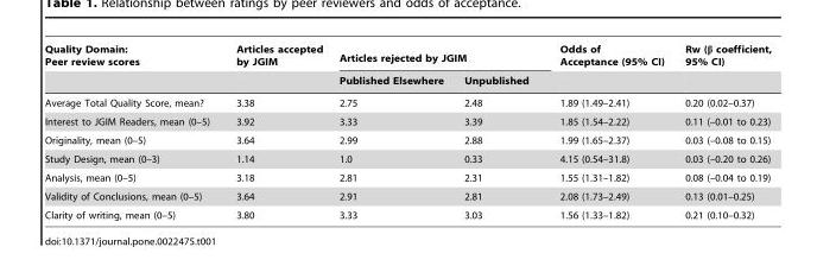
<table><thead><tr><td rowspan="2">Quality Domain: Peer review scores</td><td rowspan="2">Articles accepted by JGIM</td><td colspan="2">Articles rejected by JGIM</td><td rowspan="2">Odds of Acceptance (95% CI)</td><td rowspan="2">Rw (β coefficient, 95% CI)</td></tr><tr><td>Published Elsewhere</td><td>Unpublished</td></tr></thead><tbody><tr><td>Average Total Quality Score, mean?</td><td>3.38</td><td>2.75</td><td>2.48</td><td>1.89 (1.49–2.41)</td><td>0.20 (0.02–0.37)</td></tr><tr><td>Interest to JGIM Readers, mean (0–5)</td><td>3.92</td><td>3.33</td><td>3.39</td><td>1.85 (1.54–2.22)</td><td>0.11 (–0.01 to 0.23)</td></tr><tr><td>Originality, mean (0–5)</td><td>3.64</td><td>2.99</td><td>2.88</td><td>1.99 (1.65–2.37)</td><td>0.03 (–0.08 to 0.15)</td></tr><tr><td>Study Design, mean (0–3)</td><td>1.14</td><td>1.0</td><td>0.33</td><td>4.15 (0.54–31.8)</td><td>0.03 (–0.20 to 0.26)</td></tr><tr><td>Analysis, mean (0–5)</td><td>3.18</td><td>2.81</td><td>2.31</td><td>1.55 (1.31–1.82)</td><td>0.08 (–0.04 to 0.19)</td></tr><tr><td>Validity of Conclusions, mean (0–5)</td><td>3.64</td><td>2.91</td><td>2.81</td><td>2.08 (1.73–2.49)</td><td>0.13 (0.01–0.25)</td></tr><tr><td>Clarity of writing, mean (0–5)</td><td>3.80</td><td>3.33</td><td>3.03</td><td>1.56 (1.33–1.82)</td><td>0.21 (0.10–0.32)</td></tr></tbody></table>